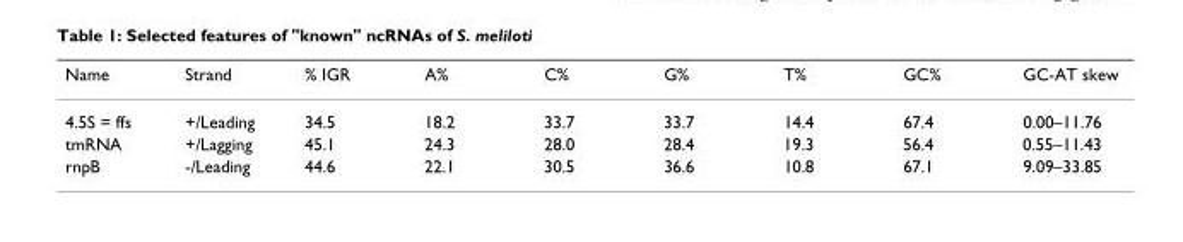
<table><thead><tr><td>Name</td><td>Strand</td><td>% IGR</td><td>A%</td><td>C%</td><td>G%</td><td>T%</td><td>GC%</td><td>GC-AT skew</td></tr></thead><tbody><tr><td>4.5S = ffs</td><td>+/Leading</td><td>34.5</td><td>18.2</td><td>33.7</td><td>33.7</td><td>14.4</td><td>67.4</td><td>0.00–11.76</td></tr><tr><td>tmRNA</td><td>+/Lagging</td><td>45.1</td><td>24.3</td><td>28.0</td><td>28.4</td><td>19.3</td><td>56.4</td><td>0.55–11.43</td></tr><tr><td>rnpB</td><td>-/Leading</td><td>44.6</td><td>22.1</td><td>30.5</td><td>36.6</td><td>10.8</td><td>67.1</td><td>9.09–33.85</td></tr></tbody></table>